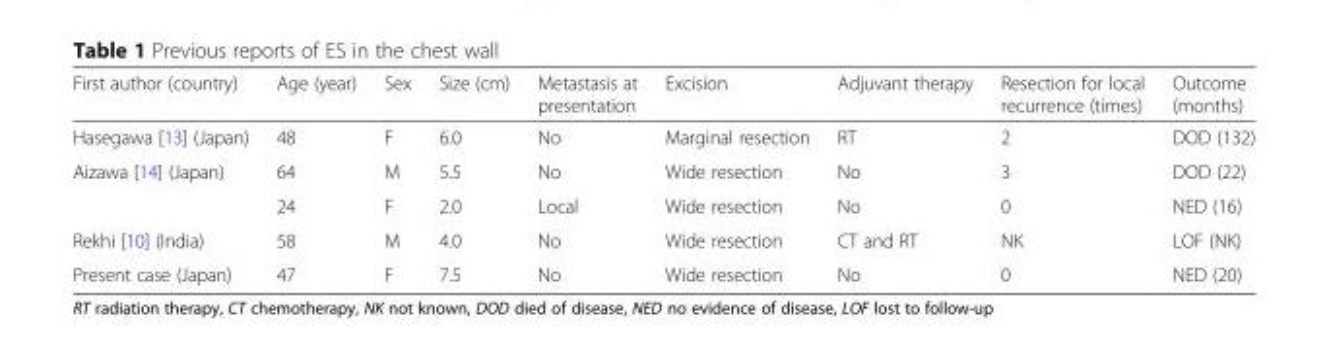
<table><thead><tr><td>First author (country)</td><td>Age (year)</td><td>Sex</td><td>Size (cm)</td><td>Metastasis at presentation</td><td>Excision</td><td>Adjuvant therapy</td><td>Resection for local recurrence (times)</td><td>Outcome (months)</td></tr></thead><tbody><tr><td>Hasegawa [13] (Japan)</td><td>48</td><td>F</td><td>6.0</td><td>No</td><td>Marginal resection</td><td>RT</td><td>2</td><td>DOD (132)</td></tr><tr><td rowspan="2">Aizawa [14] (Japan)</td><td>64</td><td>M</td><td>5.5</td><td>No</td><td>Wide resection</td><td>No</td><td>3</td><td>DOD (22)</td></tr><tr><td>24</td><td>F</td><td>2.0</td><td>Local</td><td>Wide resection</td><td>No</td><td>0</td><td>NED (16)</td></tr><tr><td>Rekhi [10] (India)</td><td>58</td><td>M</td><td>4.0</td><td>No</td><td>Wide resection</td><td>CT and RT</td><td>NK</td><td>LOF (NK)</td></tr><tr><td>Present case (Japan)</td><td>47</td><td>F</td><td>7.5</td><td>No</td><td>Wide resection</td><td>No</td><td>0</td><td>NED (20)</td></tr></tbody></table>